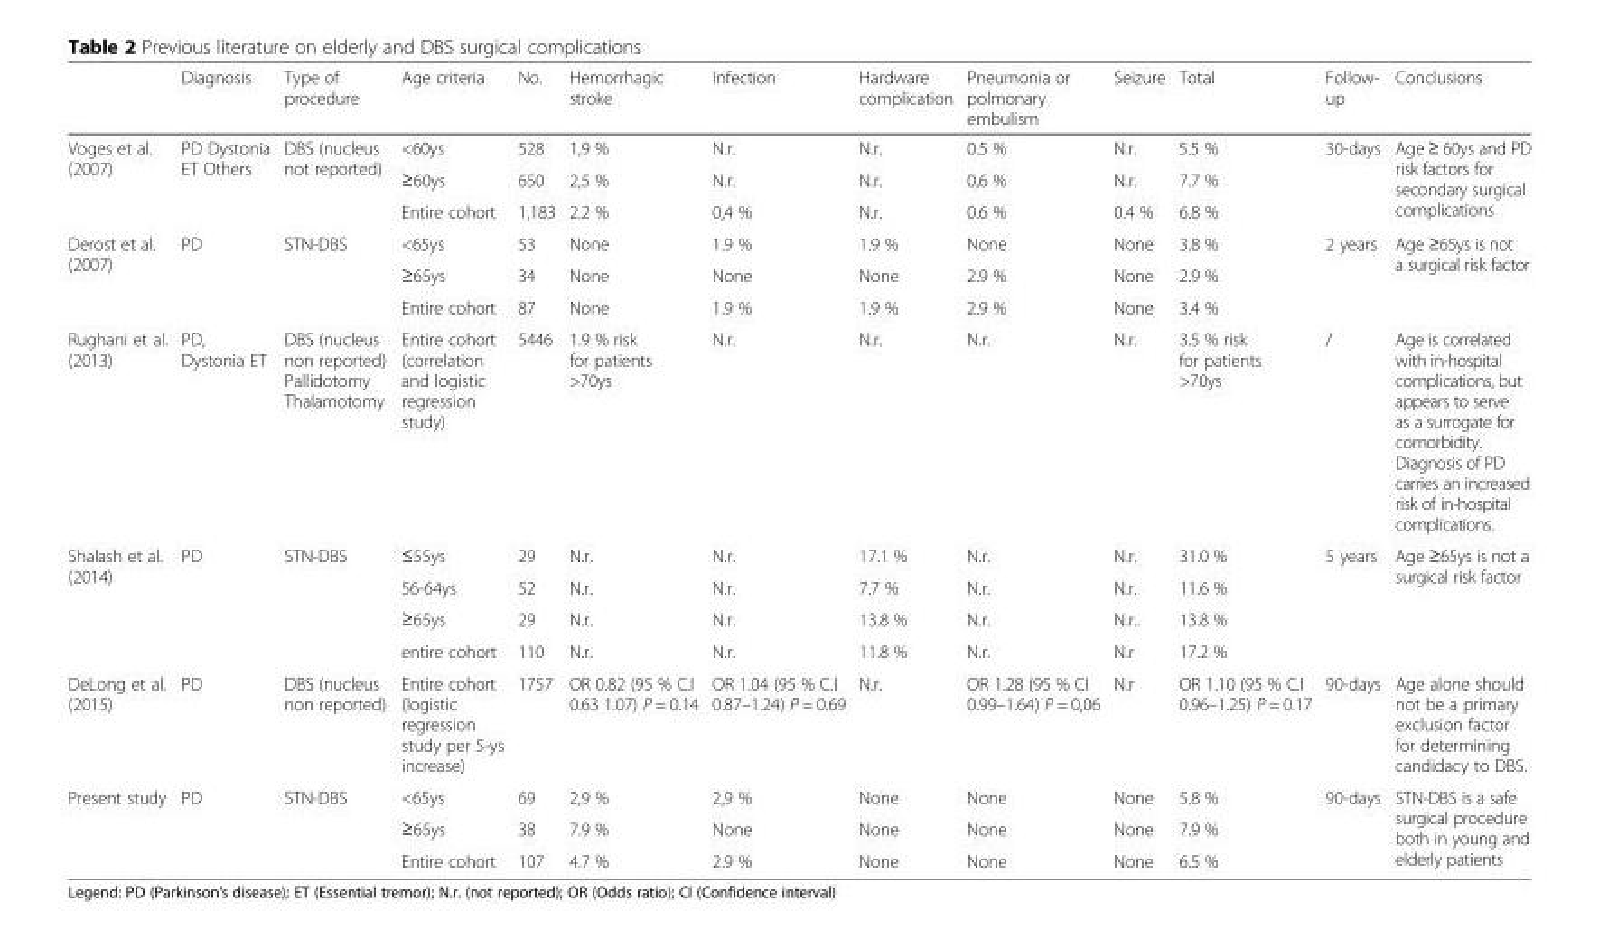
<table><thead><tr><td></td><td>Diagnosis</td><td>Type of procedure</td><td>Age criteria</td><td>No.</td><td>Hemorrhagic stroke</td><td>Infection</td><td>Hardware complication</td><td>Pneumonia or polmonary embulism</td><td>Seizure</td><td>Total</td><td>Follow- up</td><td>Conclusions</td></tr></thead><tbody><tr><td rowspan="3">Voges et al. (2007)</td><td rowspan="3">PD Dystonia ET Others</td><td rowspan="3">DBS (nucleus not reported)</td><td>&lt;60ys</td><td>528</td><td>1,9 %</td><td>N.r.</td><td>N.r.</td><td>0.5 %</td><td>N.r.</td><td>5.5 %</td><td rowspan="3">30-days</td><td rowspan="3">Age ≥ 60ys and PD risk factors for secondary surgical complications</td></tr><tr><td>≥60ys</td><td>650</td><td>2,5 %</td><td>N.r.</td><td>N.r.</td><td>0,6 %</td><td>N.r.</td><td>7.7 %</td></tr><tr><td>Entire cohort</td><td>1,183</td><td>2.2 %</td><td>0,4 %</td><td>N.r.</td><td>0.6 %</td><td>0.4 %</td><td>6.8 %</td></tr><tr><td rowspan="3">Derost et al. (2007)</td><td rowspan="3">PD</td><td rowspan="3">STN-DBS</td><td>&lt;65ys</td><td>53</td><td>None</td><td>1.9 %</td><td>1.9 %</td><td>None</td><td>None</td><td>3.8 %</td><td rowspan="3">2 years</td><td rowspan="3">Age ≥65ys is not a surgical risk factor</td></tr><tr><td>≥65ys</td><td>34</td><td>None</td><td>None</td><td>None</td><td>2.9 %</td><td>None</td><td>2.9 %</td></tr><tr><td>Entire cohort</td><td>87</td><td>None</td><td>1.9 %</td><td>1.9 %</td><td>2.9 %</td><td>None</td><td>3.4 %</td></tr><tr><td>Rughani et al. (2013)</td><td>PD, Dystonia ET</td><td>DBS (nucleus non reported) Pallidotomy Thalamotomy</td><td>Entire cohort (correlation and logistic regression study)</td><td>5446</td><td>1.9 % risk for patients &gt;70ys</td><td>N.r.</td><td>N.r.</td><td>N.r.</td><td>N.r.</td><td>3.5 % risk for patients &gt;70ys</td><td>/</td><td>Age is correlated with in-hospital complications, but appears to serve as a surrogate for comorbidity. Diagnosis of PD carries an increased risk of in-hospital complications.</td></tr><tr><td rowspan="4">Shalash et al. (2014)</td><td rowspan="4">PD</td><td rowspan="4">STN-DBS</td><td>≤55ys</td><td>29</td><td>N.r.</td><td>N.r.</td><td>17.1 %</td><td>N.r.</td><td>N.r.</td><td>31.0 %</td><td rowspan="4">5 years</td><td rowspan="4">Age ≥65ys is not a surgical risk factor</td></tr><tr><td>56-64ys</td><td>52</td><td>N.r.</td><td>N.r.</td><td>7.7 %</td><td>N.r.</td><td>N.r.</td><td>11.6 %</td></tr><tr><td>≥65ys</td><td>29</td><td>N.r.</td><td>N.r.</td><td>13.8 %</td><td>N.r.</td><td>N.r..</td><td>13.8 %</td></tr><tr><td>entire cohort</td><td>110</td><td>N.r.</td><td>N.r.</td><td>11.8 %</td><td>N.r.</td><td>N.r</td><td>17.2 %</td></tr><tr><td>DeLong et al. (2015)</td><td>PD</td><td>DBS (nucleus non reported)</td><td>Entire cohort (logistic regression study per 5-ys increase)</td><td>1757</td><td>OR 0.82 (95 % C.I 0.63 1.07) P = 0.14</td><td>OR 1.04 (95 % C.I 0.87–1.24) P = 0.69</td><td>N.r.</td><td>OR 1.28 (95 % CI 0.99–1.64) P = 0,06</td><td>N.r</td><td>OR 1.10 (95 % C.I 0.96–1.25) P = 0.17</td><td>90-days</td><td>Age alone should not be a primary exclusion factor for determining candidacy to DBS.</td></tr><tr><td rowspan="3">Present study</td><td rowspan="3">PD</td><td rowspan="3">STN-DBS</td><td>&lt;65ys</td><td>69</td><td>2,9 %</td><td>2,9 %</td><td>None</td><td>None</td><td>None</td><td>5.8 %</td><td rowspan="3">90-days</td><td rowspan="3">STN-DBS is a safe surgical procedure both in young and elderly patients</td></tr><tr><td>≥65ys</td><td>38</td><td>7.9 %</td><td>None</td><td>None</td><td>None</td><td>None</td><td>7.9 %</td></tr><tr><td>Entire cohort</td><td>107</td><td>4.7 %</td><td>2.9 %</td><td>None</td><td>None</td><td>None</td><td>6.5 %</td></tr></tbody></table>